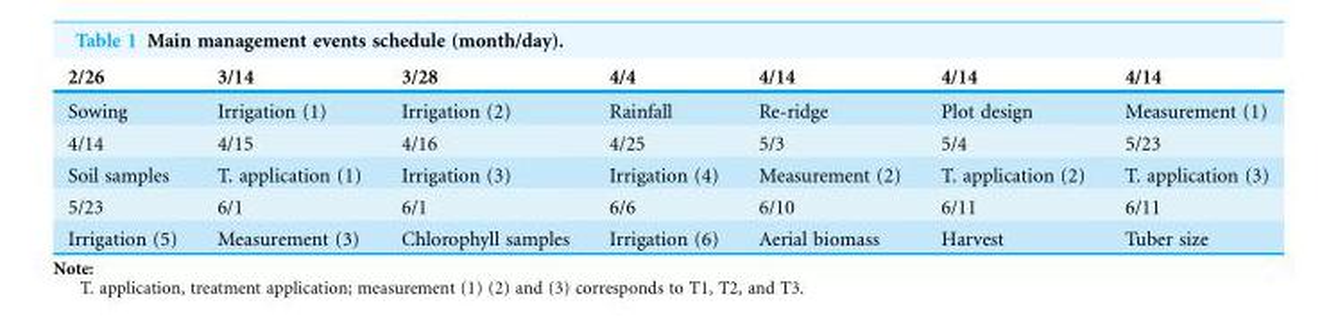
<table><thead><tr><td>2/26</td><td>3/14</td><td>3/28</td><td>4/4</td><td>4/14</td><td>4/14</td><td>4/14</td></tr></thead><tbody><tr><td>Sowing</td><td>Irrigation (1)</td><td>Irrigation (2)</td><td>Rainfall</td><td>Re-ridge</td><td>Plot design</td><td>Measurement (1)</td></tr><tr><td>4/14</td><td>4/15</td><td>4/16</td><td>4/25</td><td>5/3</td><td>5/4</td><td>5/23</td></tr><tr><td>Soil samples</td><td>T. application (1)</td><td>Irrigation (3)</td><td>Irrigation (4)</td><td>Measurement (2)</td><td>T. application (2)</td><td>T. application (3)</td></tr><tr><td>5/23</td><td>6/1</td><td>6/1</td><td>6/6</td><td>6/10</td><td>6/11</td><td>6/11</td></tr><tr><td>Irrigation (5)</td><td>Measurement (3)</td><td>Chlorophyll samples</td><td>Irrigation (6)</td><td>Aerial biomass</td><td>Harvest</td><td>Tuber size</td></tr></tbody></table>